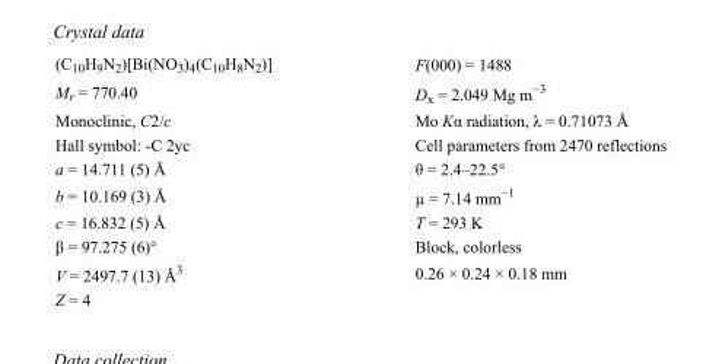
<table><tbody><tr><td>(C<sub>10</sub>H<sub>9</sub>N<sub>2</sub>)[Bi(NO<sub>3</sub>)<sub>4</sub>(C<sub>10</sub>H<sub>8</sub>N<sub>2</sub>)]</td><td>F(000) = 1488</td></tr><tr><td>M<sub>r</sub> = 770.40</td><td>D<sub>x</sub> = 2.049 Mg m<sup>−3</sup></td></tr><tr><td>Monoclinic, C2/c</td><td>Mo Kα radiation, λ = 0.71073 Å</td></tr><tr><td>Hall symbol: -C 2yc</td><td>Cell parameters from 2470 reflections</td></tr><tr><td>a = 14.711 (5) Å</td><td>θ = 2.4–22.5°</td></tr><tr><td>b = 10.169 (3) Å</td><td>µ = 7.14 mm<sup>−1</sup></td></tr><tr><td>c = 16.832 (5) Å</td><td>T = 293 K</td></tr><tr><td>β = 97.275 (6)°</td><td>Block, colorless</td></tr><tr><td>V = 2497.7 (13) Å<sup>3</sup></td><td>0.26 × 0.24 × 0.18 mm</td></tr><tr><td>Z = 4</td><td></td></tr></tbody></table>